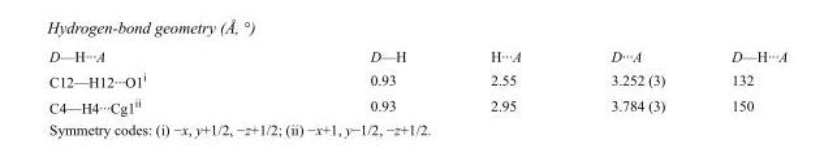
<table><tbody><tr><td>D—H···A</td><td>D—H</td><td>H···A</td><td>D···A</td><td>D—H···A</td></tr><tr><td>C12—H12···O1<sup>i</sup></td><td>0.93</td><td>2.55</td><td>3.252 (3)</td><td>132</td></tr><tr><td>C4—H4···Cg1<sup>ii</sup></td><td>0.93</td><td>2.95</td><td>3.784 (3)</td><td>150</td></tr></tbody></table>